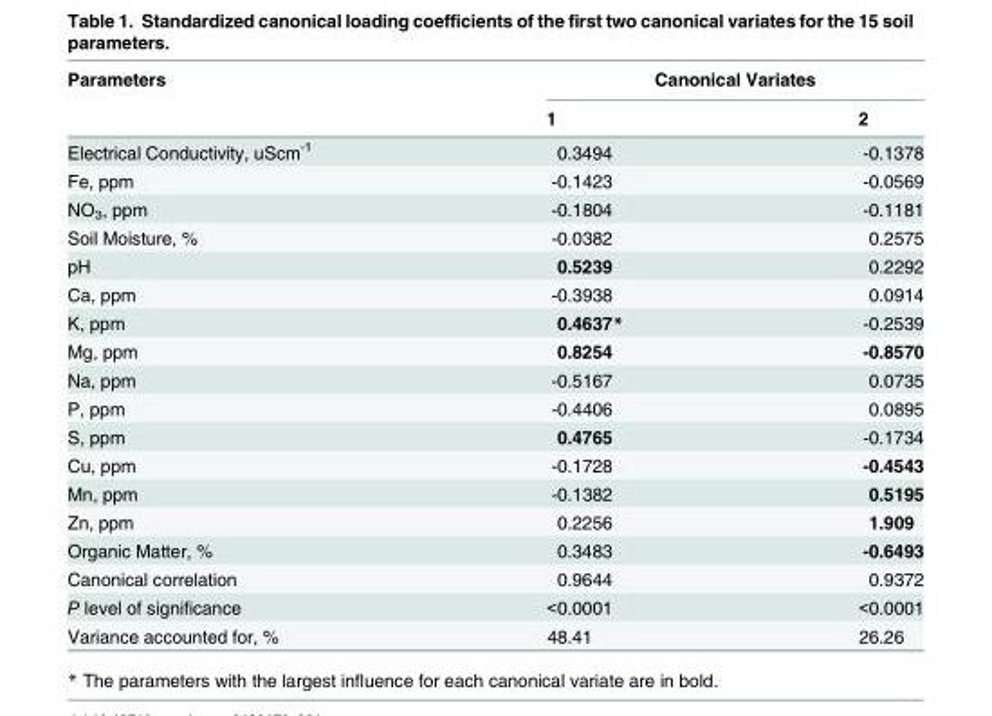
<table><thead><tr><td rowspan="2">Parameters</td><td colspan="2">Canonical Variates</td></tr><tr><td>1</td><td>2</td></tr></thead><tbody><tr><td>Electrical Conductivity, uScm<sup>-1</sup></td><td>0.3494</td><td>-0.1378</td></tr><tr><td>Fe, ppm</td><td>-0.1423</td><td>-0.0569</td></tr><tr><td>NO<sub>3</sub>, ppm</td><td>-0.1804</td><td>-0.1181</td></tr><tr><td>Soil Moisture, %</td><td>-0.0382</td><td>0.2575</td></tr><tr><td>pH</td><td>0.5239</td><td>0.2292</td></tr><tr><td>Ca, ppm</td><td>-0.3938</td><td>0.0914</td></tr><tr><td>K, ppm</td><td>0.4637*</td><td>-0.2539</td></tr><tr><td>Mg, ppm</td><td>0.8254</td><td>-0.8570</td></tr><tr><td>Na, ppm</td><td>-0.5167</td><td>0.0735</td></tr><tr><td>P, ppm</td><td>-0.4406</td><td>0.0895</td></tr><tr><td>S, ppm</td><td>0.4765</td><td>-0.1734</td></tr><tr><td>Cu, ppm</td><td>-0.1728</td><td>-0.4543</td></tr><tr><td>Mn, ppm</td><td>-0.1382</td><td>0.5195</td></tr><tr><td>Zn, ppm</td><td>0.2256</td><td>1.909</td></tr><tr><td>Organic Matter, %</td><td>0.3483</td><td>-0.6493</td></tr><tr><td>Canonical correlation</td><td>0.9644</td><td>0.9372</td></tr><tr><td>P level of significance</td><td>&lt;0.0001</td><td>&lt;0.0001</td></tr><tr><td>Variance accounted for, %</td><td>48.41</td><td>26.26</td></tr></tbody></table>